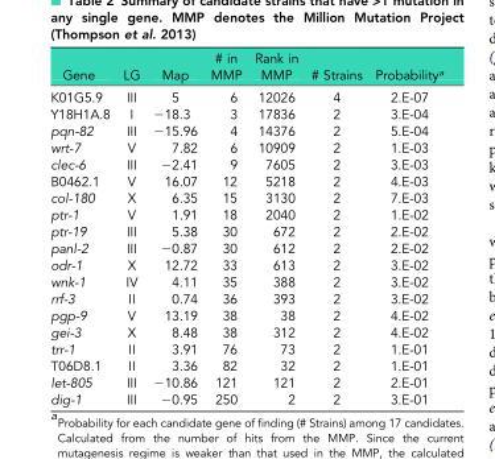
<table><thead><tr><td>Gene</td><td>LG</td><td>Map</td><td># in MMP</td><td>Rank in MMP</td><td># Strains</td><td>Probability<sup>a</sup></td></tr></thead><tbody><tr><td>K01G5.9</td><td>III</td><td>5</td><td>6</td><td>12026</td><td>4</td><td>2.E-07</td></tr><tr><td>Y18H1A.8</td><td>I</td><td>−18.3</td><td>3</td><td>17836</td><td>2</td><td>3.E-04</td></tr><tr><td>pqn-82</td><td>III</td><td>−15.96</td><td>4</td><td>14376</td><td>2</td><td>5.E-04</td></tr><tr><td>wrt-7</td><td>V</td><td>7.82</td><td>6</td><td>10909</td><td>2</td><td>1.E-03</td></tr><tr><td>clec-6</td><td>III</td><td>−2.41</td><td>9</td><td>7605</td><td>2</td><td>3.E-03</td></tr><tr><td>B0462.1</td><td>V</td><td>16.07</td><td>12</td><td>5218</td><td>2</td><td>4.E-03</td></tr><tr><td>col-180</td><td>X</td><td>6.35</td><td>15</td><td>3130</td><td>2</td><td>7.E-03</td></tr><tr><td>ptr-1</td><td>V</td><td>1.91</td><td>18</td><td>2040</td><td>2</td><td>1.E-02</td></tr><tr><td>ptr-19</td><td>III</td><td>5.38</td><td>30</td><td>672</td><td>2</td><td>2.E-02</td></tr><tr><td>panl-2</td><td>III</td><td>−0.87</td><td>30</td><td>612</td><td>2</td><td>2.E-02</td></tr><tr><td>odr-1</td><td>X</td><td>12.72</td><td>33</td><td>613</td><td>2</td><td>3.E-02</td></tr><tr><td>wnk-1</td><td>IV</td><td>4.11</td><td>35</td><td>388</td><td>2</td><td>3.E-02</td></tr><tr><td>rrf-3</td><td>II</td><td>0.74</td><td>36</td><td>393</td><td>2</td><td>3.E-02</td></tr><tr><td>pgp-9</td><td>V</td><td>13.19</td><td>38</td><td>38</td><td>2</td><td>4.E-02</td></tr><tr><td>gei-3</td><td>X</td><td>8.48</td><td>38</td><td>312</td><td>2</td><td>4.E-02</td></tr><tr><td>trr-1</td><td>II</td><td>3.91</td><td>76</td><td>73</td><td>2</td><td>1.E-01</td></tr><tr><td>T06D8.1</td><td>II</td><td>3.36</td><td>82</td><td>32</td><td>2</td><td>1.E-01</td></tr><tr><td>let-805</td><td>III</td><td>−10.86</td><td>121</td><td>121</td><td>2</td><td>2.E-01</td></tr><tr><td>dig-1</td><td>III</td><td>−0.95</td><td>250</td><td>2</td><td>2</td><td>3.E-01</td></tr></tbody></table>